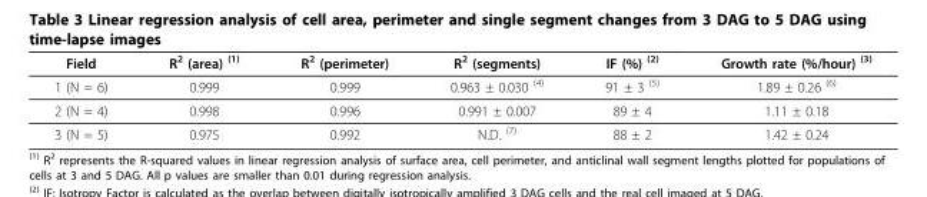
<table><thead><tr><td>Field</td><td>R<sup>2</sup> (area) <sup>(1)</sup></td><td>R<sup>2</sup> (perimeter)</td><td>R<sup>2</sup> (segments)</td><td>IF (%) <sup>(2)</sup></td><td>Growth rate (%/hour) <sup>(3)</sup></td></tr></thead><tbody><tr><td>1 (N = 6)</td><td>0.999</td><td>0.999</td><td>0.963 ± 0.030 <sup>(4)</sup></td><td>91 ± 3 <sup>(5)</sup></td><td>1.89 ± 0.26 <sup>(6)</sup></td></tr><tr><td>2 (N = 4)</td><td>0.998</td><td>0.996</td><td>0.991 ± 0.007</td><td>89 ± 4</td><td>1.11 ± 0.18</td></tr><tr><td>3 (N = 5)</td><td>0.975</td><td>0.992</td><td>N.D. <sup>(7)</sup></td><td>88 ± 2</td><td>1.42 ± 0.24</td></tr></tbody></table>